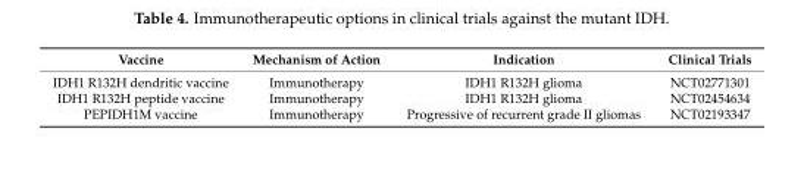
<table><thead><tr><td>Vaccine</td><td>Mechanism of Action</td><td>Indication</td><td>Clinical Trials</td></tr></thead><tbody><tr><td>IDH1 R132H dendritic vaccine</td><td>Immunotherapy</td><td>IDH1 R132H glioma</td><td>NCT02771301</td></tr><tr><td>IDH1 R132H peptide vaccine</td><td>Immunotherapy</td><td>IDH1 R132H glioma</td><td>NCT02454634</td></tr><tr><td>PEPIDH1M vaccine</td><td>Immunotherapy</td><td>Progressive of recurrent grade II gliomas</td><td>NCT02193347</td></tr></tbody></table>